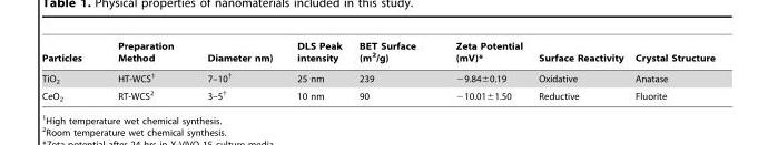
<table><thead><tr><td>Particles</td><td>Preparation Method</td><td>Diameter nm)</td><td>DLS Peak intensity</td><td>BET Surface (m<sup>2</sup>/g)</td><td>Zeta Potential (mV)*</td><td>Surface Reactivity</td><td>Crystal Structure</td></tr></thead><tbody><tr><td>TiO<sub>2</sub></td><td>HT-WCS<sup>1</sup></td><td>7–10†</td><td>25 nm</td><td>239</td><td>−9.84±0.19</td><td>Oxidative</td><td>Anatase</td></tr><tr><td>CeO<sub>2</sub></td><td>RT-WCS<sup>2</sup></td><td>3–5†</td><td>10 nm</td><td>90</td><td>−10.01±1.50</td><td>Reductive</td><td>Fluorite</td></tr></tbody></table>